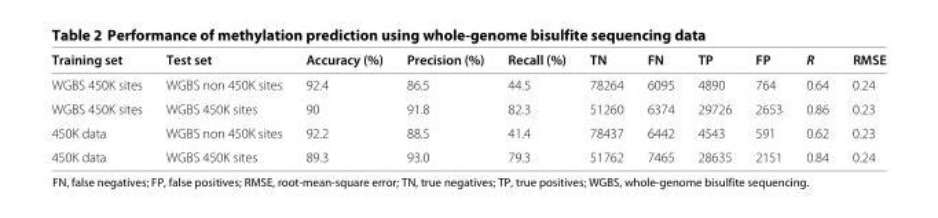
<table><thead><tr><td>Training set</td><td>Test set</td><td>Accuracy (%)</td><td>Precision (%)</td><td>Recall (%)</td><td>TN</td><td>FN</td><td>TP</td><td>FP</td><td>R</td><td>RMSE</td></tr></thead><tbody><tr><td>WGBS 450K sites</td><td>WGBS non 450K sites</td><td>92.4</td><td>86.5</td><td>44.5</td><td>78264</td><td>6095</td><td>4890</td><td>764</td><td>0.64</td><td>0.24</td></tr><tr><td>WGBS 450K sites</td><td>WGBS 450K sites</td><td>90</td><td>91.8</td><td>82.3</td><td>51260</td><td>6374</td><td>29726</td><td>2653</td><td>0.86</td><td>0.23</td></tr><tr><td>450K data</td><td>WGBS non 450K sites</td><td>92.2</td><td>88.5</td><td>41.4</td><td>78437</td><td>6442</td><td>4543</td><td>591</td><td>0.62</td><td>0.23</td></tr><tr><td>450K data</td><td>WGBS 450K sites</td><td>89.3</td><td>93.0</td><td>79.3</td><td>51762</td><td>7465</td><td>28635</td><td>2151</td><td>0.84</td><td>0.24</td></tr></tbody></table>